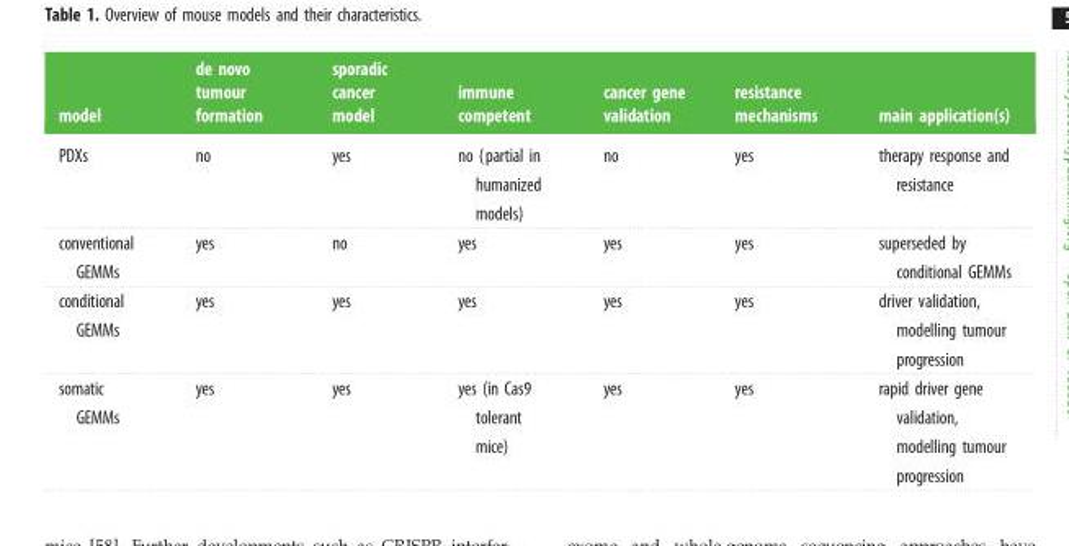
<table><thead><tr><td>model</td><td>de novo tumour formation</td><td>sporadic cancer model</td><td>immune competent</td><td>cancer gene validation</td><td>resistance mechanisms</td><td>main application(s)</td></tr></thead><tbody><tr><td>PDXs</td><td>no</td><td>yes</td><td>no (partial in humanized models)</td><td>no</td><td>yes</td><td>therapy response and resistance</td></tr><tr><td>conventional GEMMs</td><td>yes</td><td>no</td><td>yes</td><td>yes</td><td>yes</td><td>superseded by conditional GEMMs</td></tr><tr><td>conditional GEMMs</td><td>yes</td><td>yes</td><td>yes</td><td>yes</td><td>yes</td><td>driver validation, modelling tumour progression</td></tr><tr><td>somatic GEMMs</td><td>yes</td><td>yes</td><td>yes (in Cas9 tolerant mice)</td><td>yes</td><td>yes</td><td>rapid driver gene validation, modelling tumour progression</td></tr></tbody></table>